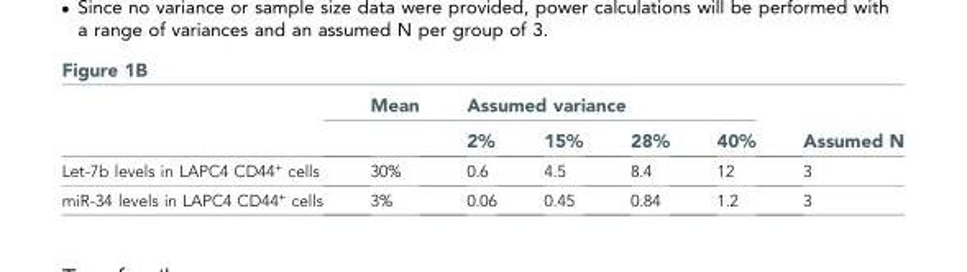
<table><thead><tr><td colspan="7">Figure 1B</td></tr><tr><td rowspan="2"></td><td rowspan="2">Mean</td><td colspan="4">Assumed variance</td><td rowspan="2">Assumed N</td></tr><tr><td>2%</td><td>15%</td><td>28%</td><td>40%</td></tr></thead><tbody><tr><td>Let-7b levels in LAPC4 CD44<sup>+</sup> cells</td><td>30%</td><td>0.6</td><td>4.5</td><td>8.4</td><td>12</td><td>3</td></tr><tr><td>miR-34 levels in LAPC4 CD44<sup>+</sup> cells</td><td>3%</td><td>0.06</td><td>0.45</td><td>0.84</td><td>1.2</td><td>3</td></tr></tbody></table>